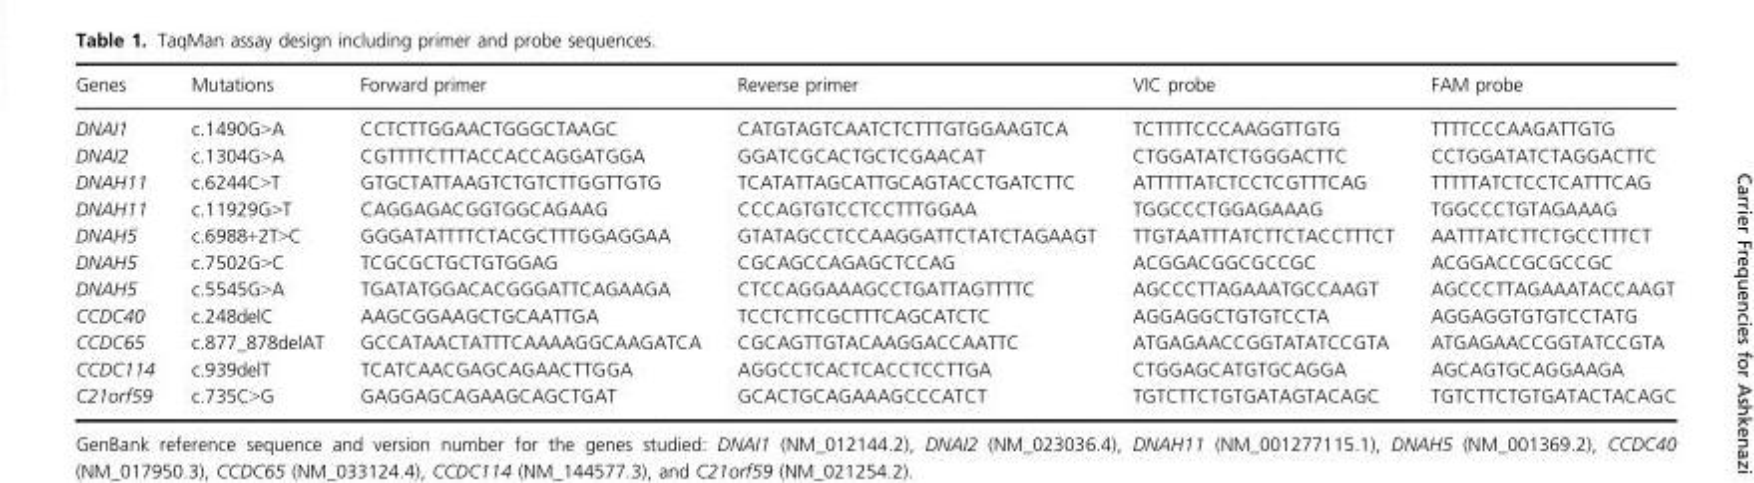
<table><thead><tr><td>Genes</td><td>Mutations</td><td>Forward primer</td><td>Reverse primer</td><td>VIC probe</td><td>FAM probe</td></tr></thead><tbody><tr><td>DNAI1</td><td>c.1490G&gt;A</td><td>CCTCTTGGAACTGGGCTAAGC</td><td>CATGTAGTCAATCTCTTTGTGGAAGTCA</td><td>TCTTTTCCCAAGGTTGTG</td><td>TTTTCCCAAGATTGTG</td></tr><tr><td>DNAI2</td><td>c.1304G&gt;A</td><td>CGTTTTCTTTACCACCAGGATGGA</td><td>GGATCGCACTGCTCGAACAT</td><td>CTGGATATCTGGGACTTC</td><td>CCTGGATATCTAGGACTTC</td></tr><tr><td>DNAH11</td><td>c.6244C&gt;T</td><td>GTGCTATTAAGTCTGTCTTGGTTGTG</td><td>TCATATTAGCATTGCAGTACCTGATCTTC</td><td>ATTTTTATCTCCTCGTTTCAG</td><td>TTTTTATCTCCTCATTTCAG</td></tr><tr><td>DNAH11</td><td>c.11929G&gt;T</td><td>CAGGAGACGGTGGCAGAAG</td><td>CCCAGTGTCCTCCTTTGGAA</td><td>TGGCCCTGGAGAAAG</td><td>TGGCCCTGTAGAAAG</td></tr><tr><td>DNAH5</td><td>c.6988+2T&gt;C</td><td>GGGATATTTTCTACGCTTTGGAGGAA</td><td>GTATAGCCTCCAAGGATTCTATCTAGAAGT</td><td>TTGTAATTTATCTTCTACCTTTCT</td><td>AATTTATCTTCTGCCTTTCT</td></tr><tr><td>DNAH5</td><td>c.7502G&gt;C</td><td>TCGCGCTGCTGTGGAG</td><td>CGCAGCCAGAGCTCCAG</td><td>ACGGACGGCGCCGC</td><td>ACGGACCGCGCCGC</td></tr><tr><td>DNAH5</td><td>c.5545G&gt;A</td><td>TGATATGGACACGGGATTCAGAAGA</td><td>CTCCAGGAAAGCCTGATTAGTTTTC</td><td>AGCCCTTAGAAATGCCAAGT</td><td>AGCCCTTAGAAATACCAAGT</td></tr><tr><td>CCDC40</td><td>c.248delC</td><td>AAGCGGAAGCTGCAATTGA</td><td>TCCTCTTCGCTTTCAGCATCTC</td><td>AGGAGGCTGTGTCCTA</td><td>AGGAGGTGTGTCCTATG</td></tr><tr><td>CCDC65</td><td>c.877_878delAT</td><td>GCCATAACTATTTCAAAAGGCAAGATCA</td><td>CGCAGTTGTACAAGGACCAATTC</td><td>ATGAGAACCGGTATATCCGTA</td><td>ATGAGAACCGGTATCCGTA</td></tr><tr><td>CCDC114</td><td>c.939delT</td><td>TCATCAACGAGCAGAACTTGGA</td><td>AGGCCTCACTCACCTCCTTGA</td><td>CTGGAGCATGTGCAGGA</td><td>AGCAGTGCAGGAAGA</td></tr><tr><td>C21orf59</td><td>c.735C&gt;G</td><td>GAGGAGCAGAAGCAGCTGAT</td><td>GCACTGCAGAAAGCCCATCT</td><td>TGTCTTCTGTGATAGTACAGC</td><td>TGTCTTCTGTGATACTACAGC</td></tr></tbody></table>